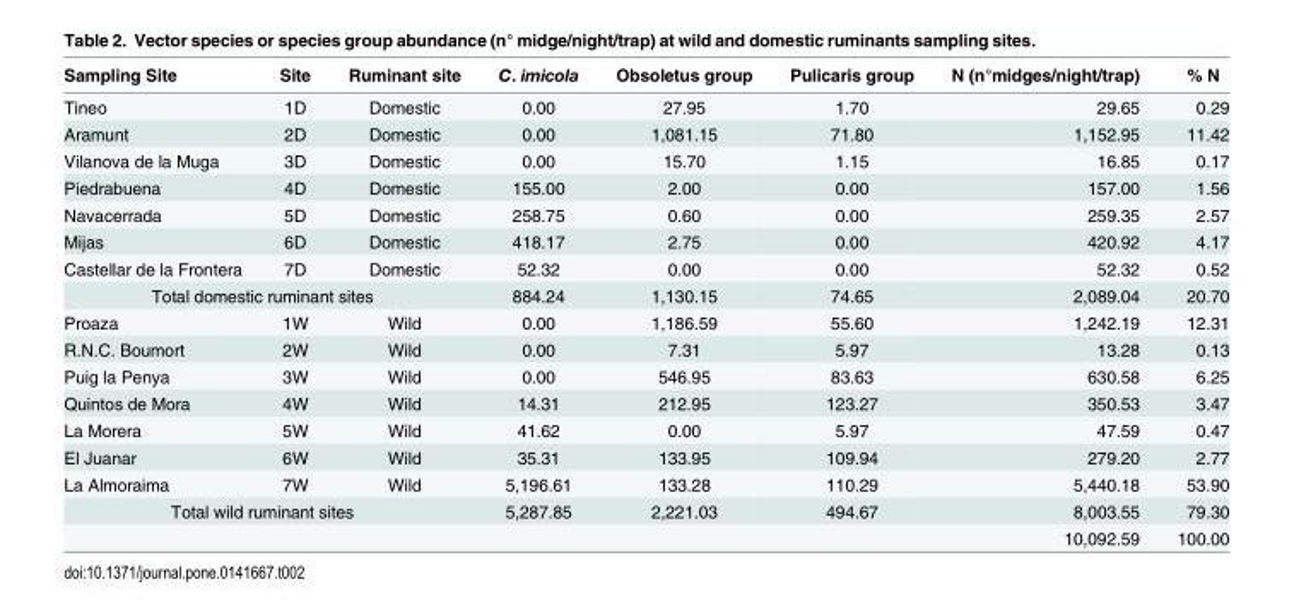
<table><thead><tr><td>Sampling Site</td><td>Site</td><td>Ruminant site</td><td>C. imicola</td><td>Obsoletus group</td><td>Pulicaris group</td><td>N (n°midges/night/trap)</td><td>% N</td></tr></thead><tbody><tr><td>Tineo</td><td>1D</td><td>Domestic</td><td>0.00</td><td>27.95</td><td>1.70</td><td>29.65</td><td>0.29</td></tr><tr><td>Aramunt</td><td>2D</td><td>Domestic</td><td>0.00</td><td>1,081.15</td><td>71.80</td><td>1,152.95</td><td>11.42</td></tr><tr><td>Vilanova de la Muga</td><td>3D</td><td>Domestic</td><td>0.00</td><td>15.70</td><td>1.15</td><td>16.85</td><td>0.17</td></tr><tr><td>Piedrabuena</td><td>4D</td><td>Domestic</td><td>155.00</td><td>2.00</td><td>0.00</td><td>157.00</td><td>1.56</td></tr><tr><td>Navacerrada</td><td>5D</td><td>Domestic</td><td>258.75</td><td>0.60</td><td>0.00</td><td>259.35</td><td>2.57</td></tr><tr><td>Mijas</td><td>6D</td><td>Domestic</td><td>418.17</td><td>2.75</td><td>0.00</td><td>420.92</td><td>4.17</td></tr><tr><td>Castellar de la Frontera</td><td>7D</td><td>Domestic</td><td>52.32</td><td>0.00</td><td>0.00</td><td>52.32</td><td>0.52</td></tr><tr><td colspan="3">Total domestic ruminant sites</td><td>884.24</td><td>1,130.15</td><td>74.65</td><td>2,089.04</td><td>20.70</td></tr><tr><td>Proaza</td><td>1W</td><td>Wild</td><td>0.00</td><td>1,186.59</td><td>55.60</td><td>1,242.19</td><td>12.31</td></tr><tr><td>R.N.C. Boumort</td><td>2W</td><td>Wild</td><td>0.00</td><td>7.31</td><td>5.97</td><td>13.28</td><td>0.13</td></tr><tr><td>Puig la Penya</td><td>3W</td><td>Wild</td><td>0.00</td><td>546.95</td><td>83.63</td><td>630.58</td><td>6.25</td></tr><tr><td>Quintos de Mora</td><td>4W</td><td>Wild</td><td>14.31</td><td>212.95</td><td>123.27</td><td>350.53</td><td>3.47</td></tr><tr><td>La Morera</td><td>5W</td><td>Wild</td><td>41.62</td><td>0.00</td><td>5.97</td><td>47.59</td><td>0.47</td></tr><tr><td>El Juanar</td><td>6W</td><td>Wild</td><td>35.31</td><td>133.95</td><td>109.94</td><td>279.20</td><td>2.77</td></tr><tr><td>La Almoraima</td><td>7W</td><td>Wild</td><td>5,196.61</td><td>133.28</td><td>110.29</td><td>5,440.18</td><td>53.90</td></tr><tr><td colspan="3">Total wild ruminant sites</td><td>5,287.85</td><td>2,221.03</td><td>494.67</td><td>8,003.55</td><td>79.30</td></tr><tr><td></td><td></td><td></td><td></td><td></td><td></td><td>10,092.59</td><td>100.00</td></tr></tbody></table>